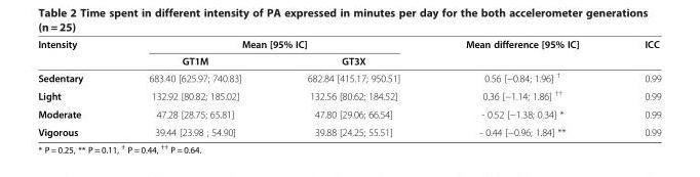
<table><thead><tr><td rowspan="2">Intensity</td><td colspan="2">Mean [95% IC]</td><td rowspan="2">Mean difference [95% IC]</td><td rowspan="2">ICC</td></tr><tr><td>GT1M</td><td>GT3X</td></tr></thead><tbody><tr><td>Sedentary</td><td>683.40 [625.97; 740.83]</td><td>682.84 [415.17; 950.51]</td><td>0.56 [−0.84; 1.96] <sup>†</sup></td><td>0.99</td></tr><tr><td>Light</td><td>132.92 [80.82; 185.02]</td><td>132.56 [80.62; 184.52]</td><td>0.36 [−1.14; 1.86] <sup>††</sup></td><td>0.99</td></tr><tr><td>Moderate</td><td>47.28 [28.75; 65.81]</td><td>47.80 [29.06; 66.54]</td><td>- 0.52 [−1.38; 0.34] *</td><td>0.99</td></tr><tr><td>Vigorous</td><td>39.44 [23.98 ; 54.90]</td><td>39.88 [24.25; 55.51]</td><td>- 0.44 [−0.96; 1.84] **</td><td>0.99</td></tr></tbody></table>